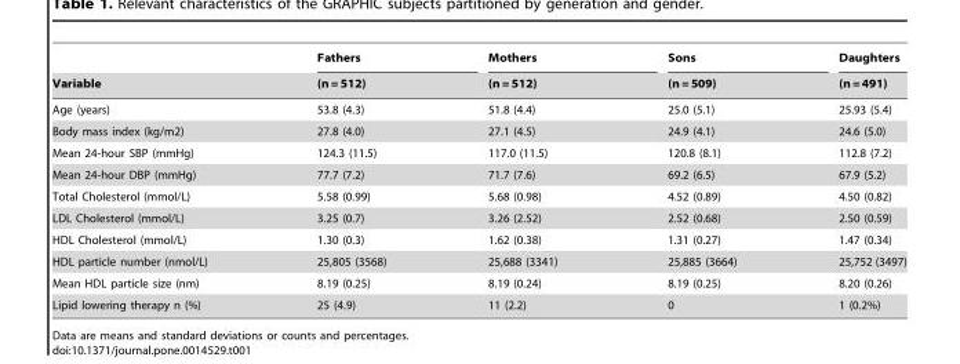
<table><thead><tr><td rowspan="2">Variable</td><td rowspan="2">Fathers (n = 512)</td><td rowspan="2">Mothers (n = 512)</td><td rowspan="2">Sons (n = 509)</td><td rowspan="2">Daughters (n = 491)</td></tr><tr></tr></thead><tbody><tr><td>Age (years)</td><td>53.8 (4.3)</td><td>51.8 (4.4)</td><td>25.0 (5.1)</td><td>25.93 (5.4)</td></tr><tr><td>Body mass index (kg/m2)</td><td>27.8 (4.0)</td><td>27.1 (4.5)</td><td>24.9 (4.1)</td><td>24.6 (5.0)</td></tr><tr><td>Mean 24-hour SBP (mmHg)</td><td>124.3 (11.5)</td><td>117.0 (11.5)</td><td>120.8 (8.1)</td><td>112.8 (7.2)</td></tr><tr><td>Mean 24-hour DBP (mmHg)</td><td>77.7 (7.2)</td><td>71.7 (7.6)</td><td>69.2 (6.5)</td><td>67.9 (5.2)</td></tr><tr><td>Total Cholesterol (mmol/L)</td><td>5.58 (0.99)</td><td>5.68 (0.98)</td><td>4.52 (0.89)</td><td>4.50 (0.82)</td></tr><tr><td>LDL Cholesterol (mmol/L)</td><td>3.25 (0.7)</td><td>3.26 (2.52)</td><td>2.52 (0.68)</td><td>2.50 (0.59)</td></tr><tr><td>HDL Cholesterol (mmol/L)</td><td>1.30 (0.3)</td><td>1.62 (0.38)</td><td>1.31 (0.27)</td><td>1.47 (0.34)</td></tr><tr><td>HDL particle number (nmol/L)</td><td>25,805 (3568)</td><td>25,688 (3341)</td><td>25,885 (3664)</td><td>25,752 (3497)</td></tr><tr><td>Mean HDL particle size (nm)</td><td>8.19 (0.25)</td><td>8.19 (0.24)</td><td>8.19 (0.25)</td><td>8.20 (0.26)</td></tr><tr><td>Lipid lowering therapy n (%)</td><td>25 (4.9)</td><td>11 (2.2)</td><td>0</td><td>1 (0.2%)</td></tr></tbody></table>